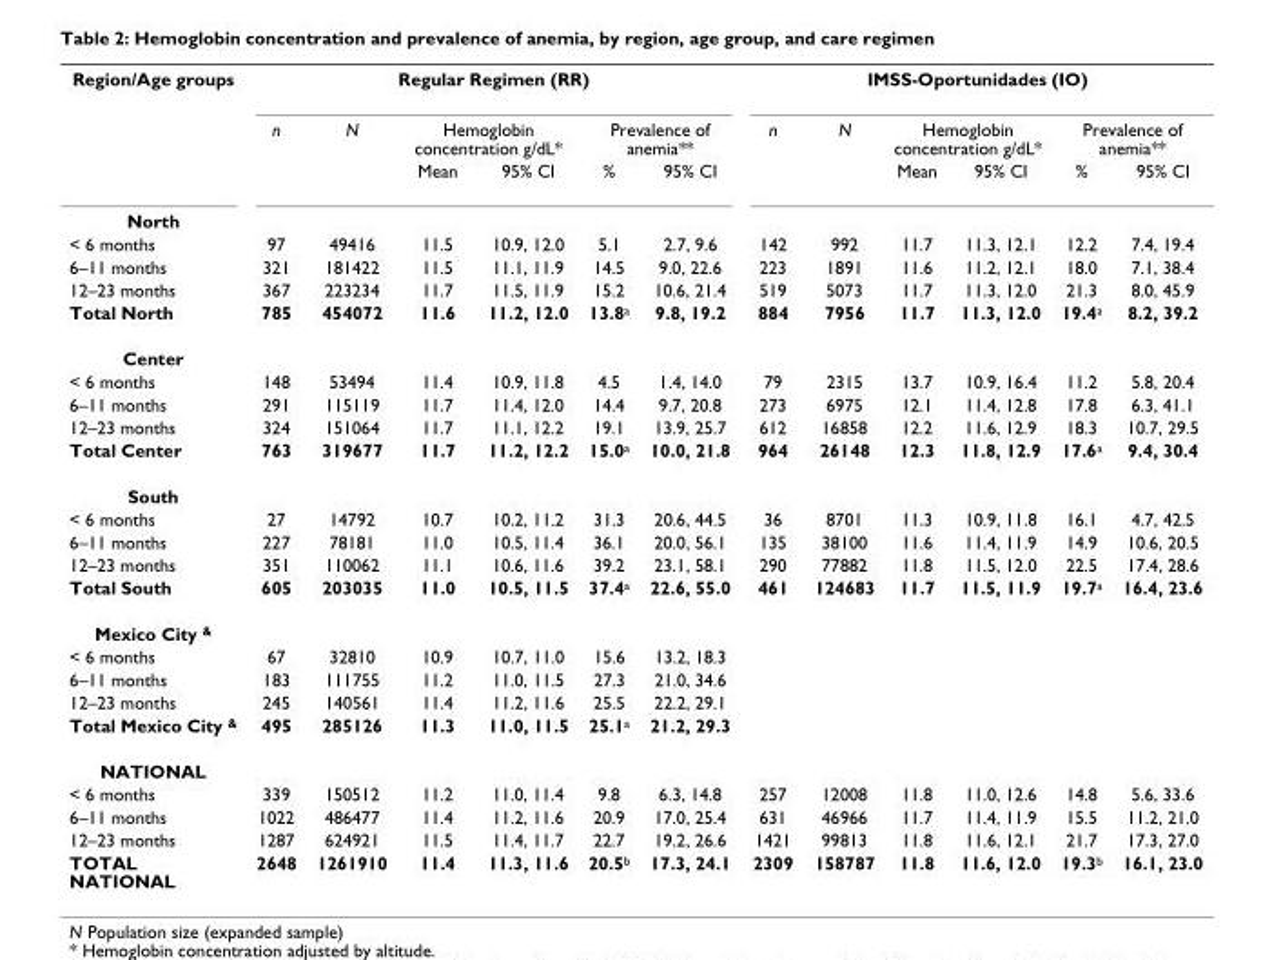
<table><tbody><tr><td rowspan="3">Region/Age groups</td><td colspan="6">Regular Regimen (RR)</td><td colspan="6">IMSS-Oportunidades (IO)</td></tr><tr><td>n</td><td>N</td><td colspan="2">Hemoglobin concentration g/dL*</td><td colspan="2">Prevalence of anemia**</td><td>n</td><td>N</td><td colspan="2">Hemoglobin concentration g/dL*</td><td colspan="2">Prevalence of anemia**</td></tr><tr><td></td><td></td><td>Mean</td><td>95% CI</td><td>%</td><td>95% CI</td><td></td><td></td><td>Mean</td><td>95% CI</td><td>%</td><td>95% CI</td></tr><tr><td colspan="13">North</td></tr><tr><td>&lt; 6 months</td><td>97</td><td>49416</td><td>11.5</td><td>10.9, 12.0</td><td>5.1</td><td>2.7, 9.6</td><td>142</td><td>992</td><td>11.7</td><td>11.3, 12.1</td><td>12.2</td><td>7.4, 19.4</td></tr><tr><td>6–11 months</td><td>321</td><td>181422</td><td>11.5</td><td>11.1, 11.9</td><td>14.5</td><td>9.0, 22.6</td><td>223</td><td>1891</td><td>11.6</td><td>11.2, 12.1</td><td>18.0</td><td>7.1, 38.4</td></tr><tr><td>12–23 months</td><td>367</td><td>223234</td><td>11.7</td><td>11.5, 11.9</td><td>15.2</td><td>10.6, 21.4</td><td>519</td><td>5073</td><td>11.7</td><td>11.3, 12.0</td><td>21.3</td><td>8.0, 45.9</td></tr><tr><td>Total North</td><td>785</td><td>454072</td><td>11.6</td><td>11.2, 12.0</td><td>13.8<sup>a</sup></td><td>9.8, 19.2</td><td>884</td><td>7956</td><td>11.7</td><td>11.3, 12.0</td><td>19.4<sup>a</sup></td><td>8.2, 39.2</td></tr><tr><td colspan="13">Center</td></tr><tr><td>&lt; 6 months</td><td>148</td><td>53494</td><td>11.4</td><td>10.9, 11.8</td><td>4.5</td><td>1.4, 14.0</td><td>79</td><td>2315</td><td>13.7</td><td>10.9, 16.4</td><td>11.2</td><td>5.8, 20.4</td></tr><tr><td>6–11 months</td><td>291</td><td>115119</td><td>11.7</td><td>11.4, 12.0</td><td>14.4</td><td>9.7, 20.8</td><td>273</td><td>6975</td><td>12.1</td><td>11.4, 12.8</td><td>17.8</td><td>6.3, 41.1</td></tr><tr><td>12–23 months</td><td>324</td><td>151064</td><td>11.7</td><td>11.1, 12.2</td><td>19.1</td><td>13.9, 25.7</td><td>612</td><td>16858</td><td>12.2</td><td>11.6, 12.9</td><td>18.3</td><td>10.7, 29.5</td></tr><tr><td>Total Center</td><td>763</td><td>319677</td><td>11.7</td><td>11.2, 12.2</td><td>15.0<sup>a</sup></td><td>10.0, 21.8</td><td>964</td><td>26148</td><td>12.3</td><td>11.8, 12.9</td><td>17.6<sup>a</sup></td><td>9.4, 30.4</td></tr><tr><td colspan="13">South</td></tr><tr><td>&lt; 6 months</td><td>27</td><td>14792</td><td>10.7</td><td>10.2, 11.2</td><td>31.3</td><td>20.6, 44.5</td><td>36</td><td>8701</td><td>11.3</td><td>10.9, 11.8</td><td>16.1</td><td>4.7, 42.5</td></tr><tr><td>6–11 months</td><td>227</td><td>78181</td><td>11.0</td><td>10.5, 11.4</td><td>36.1</td><td>20.0, 56.1</td><td>135</td><td>38100</td><td>11.6</td><td>11.4, 11.9</td><td>14.9</td><td>10.6, 20.5</td></tr><tr><td>12–23 months</td><td>351</td><td>110062</td><td>11.1</td><td>10.6, 11.6</td><td>39.2</td><td>23.1, 58.1</td><td>290</td><td>77882</td><td>11.8</td><td>11.5, 12.0</td><td>22.5</td><td>17.4, 28.6</td></tr><tr><td>Total South</td><td>605</td><td>203035</td><td>11.0</td><td>10.5, 11.5</td><td>37.4<sup>a</sup></td><td>22.6, 55.0</td><td>461</td><td>124683</td><td>11.7</td><td>11.5, 11.9</td><td>19.7<sup>a</sup></td><td>16.4, 23.6</td></tr><tr><td colspan="13">Mexico City <sup>&amp;</sup></td></tr><tr><td>&lt; 6 months</td><td>67</td><td>32810</td><td>10.9</td><td>10.7, 11.0</td><td>15.6</td><td>13.2, 18.3</td><td></td><td></td><td></td><td></td><td></td><td></td></tr><tr><td>6–11 months</td><td>183</td><td>111755</td><td>11.2</td><td>11.0, 11.5</td><td>27.3</td><td>21.0, 34.6</td><td></td><td></td><td></td><td></td><td></td><td></td></tr><tr><td>12–23 months</td><td>245</td><td>140561</td><td>11.4</td><td>11.2, 11.6</td><td>25.5</td><td>22.2, 29.1</td><td></td><td></td><td></td><td></td><td></td><td></td></tr><tr><td>Total Mexico City <sup>&amp;</sup></td><td>495</td><td>285126</td><td>11.3</td><td>11.0, 11.5</td><td>25.1<sup>a</sup></td><td>21.2, 29.3</td><td></td><td></td><td></td><td></td><td></td><td></td></tr><tr><td colspan="13">NATIONAL</td></tr><tr><td>&lt; 6 months</td><td>339</td><td>150512</td><td>11.2</td><td>11.0, 11.4</td><td>9.8</td><td>6.3, 14.8</td><td>257</td><td>12008</td><td>11.8</td><td>11.0, 12.6</td><td>14.8</td><td>5.6, 33.6</td></tr><tr><td>6–11 months</td><td>1022</td><td>486477</td><td>11.4</td><td>11.2, 11.6</td><td>20.9</td><td>17.0, 25.4</td><td>631</td><td>46966</td><td>11.7</td><td>11.4, 11.9</td><td>15.5</td><td>11.2, 21.0</td></tr><tr><td>12–23 months</td><td>1287</td><td>624921</td><td>11.5</td><td>11.4, 11.7</td><td>22.7</td><td>19.2, 26.6</td><td>1421</td><td>99813</td><td>11.8</td><td>11.6, 12.1</td><td>21.7</td><td>17.3, 27.0</td></tr><tr><td>TOTAL NATIONAL</td><td>2648</td><td>1261910</td><td>11.4</td><td>11.3, 11.6</td><td>20.5<sup>b</sup></td><td>17.3, 24.1</td><td>2309</td><td>158787</td><td>11.8</td><td>11.6, 12.0</td><td>19.3<sup>b</sup></td><td>16.1, 23.0</td></tr></tbody></table>